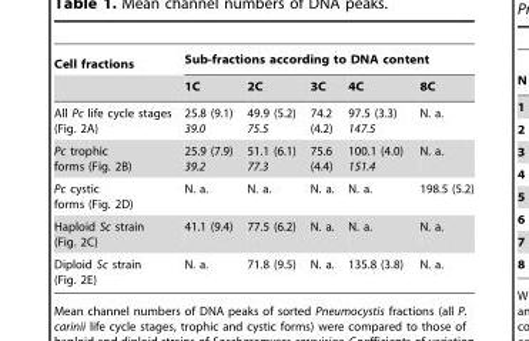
<table><thead><tr><td rowspan="2">Cell fractions</td><td colspan="5">Sub-fractions according to DNA content</td></tr><tr><td>1C</td><td>2C</td><td>3C</td><td>4C</td><td>8C</td></tr></thead><tbody><tr><td>All Pc life cycle stages (Fig. 2A)</td><td>25.8 (9.1) 39.0</td><td>49.9 (5.2) 75.5</td><td>74.2 (4.2)</td><td>97.5 (3.3) 147.5</td><td>N. a.</td></tr><tr><td>Pc trophic forms (Fig. 2B)</td><td>25.9 (7.9) 39.2</td><td>51.1 (6.1) 77.3</td><td>75.6 (4.4)</td><td>100.1 (4.0) 151.4</td><td>N. a.</td></tr><tr><td>Pc cystic forms (Fig. 2D)</td><td>N. a.</td><td>N. a.</td><td>N. a.</td><td>N. a.</td><td>198.5 (5.2)</td></tr><tr><td>Haploid Sc strain (Fig. 2C)</td><td>41.1 (9.4)</td><td>77.5 (6.2)</td><td>N. a.</td><td>N. a.</td><td>N. a.</td></tr><tr><td>Diploid Sc strain (Fig. 2E)</td><td>N. a.</td><td>71.8 (9.5)</td><td>N. a.</td><td>135.8 (3.8)</td><td>N. a.</td></tr></tbody></table>